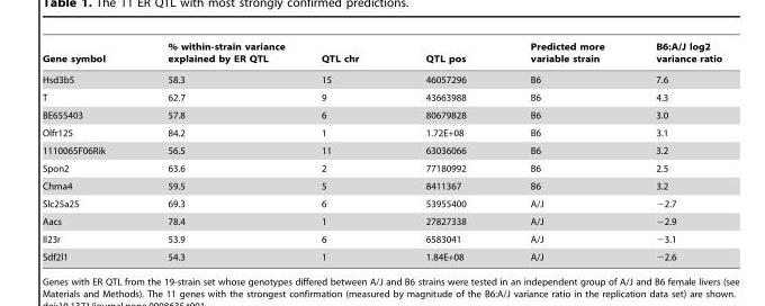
<table><thead><tr><td>Gene symbol</td><td>% within-strain variance explained by ER QTL</td><td>QTL chr</td><td>QTL pos</td><td>Predicted more variable strain</td><td>B6:A/J log2 variance ratio</td></tr></thead><tbody><tr><td>Hsd3b5</td><td>58.3</td><td>15</td><td>46057296</td><td>B6</td><td>7.6</td></tr><tr><td>T</td><td>62.7</td><td>9</td><td>43663988</td><td>B6</td><td>4.3</td></tr><tr><td>BE655403</td><td>57.8</td><td>6</td><td>80679828</td><td>B6</td><td>3.0</td></tr><tr><td>Olfr125</td><td>84.2</td><td>1</td><td>1.72E+08</td><td>B6</td><td>3.1</td></tr><tr><td>1110065F06Rik</td><td>56.5</td><td>11</td><td>63036066</td><td>B6</td><td>3.2</td></tr><tr><td>Spon2</td><td>63.6</td><td>2</td><td>77180992</td><td>B6</td><td>2.5</td></tr><tr><td>Chrna4</td><td>59.5</td><td>5</td><td>8411367</td><td>B6</td><td>3.2</td></tr><tr><td>Slc25a25</td><td>69.3</td><td>6</td><td>53955400</td><td>A/J</td><td>−2.7</td></tr><tr><td>Aacs</td><td>78.4</td><td>1</td><td>27827338</td><td>A/J</td><td>−2.9</td></tr><tr><td>Il23r</td><td>53.9</td><td>6</td><td>6583041</td><td>A/J</td><td>−3.1</td></tr><tr><td>Sdf2l1</td><td>54.3</td><td>1</td><td>1.84E+08</td><td>A/J</td><td>−2.6</td></tr></tbody></table>